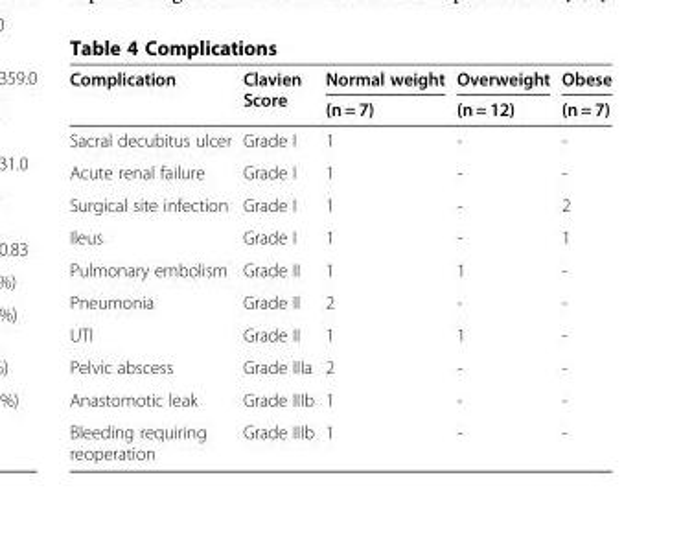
<table><thead><tr><td rowspan="2">Complication</td><td rowspan="2">Clavien Score</td><td rowspan="2">Normal weight (n = 7)</td><td rowspan="2">Overweight (n = 12)</td><td rowspan="2">Obese (n = 7)</td></tr><tr></tr></thead><tbody><tr><td>Sacral decubitus ulcer</td><td>Grade I</td><td>1</td><td>-</td><td>-</td></tr><tr><td>Acute renal failure</td><td>Grade I</td><td>1</td><td>-</td><td>-</td></tr><tr><td>Surgical site infection</td><td>Grade I</td><td>1</td><td>-</td><td>2</td></tr><tr><td>Ileus</td><td>Grade I</td><td>1</td><td>-</td><td>1</td></tr><tr><td>Pulmonary embolism</td><td>Grade II</td><td>1</td><td>1</td><td>-</td></tr><tr><td>Pneumonia</td><td>Grade II</td><td>2</td><td>-</td><td>-</td></tr><tr><td>UTI</td><td>Grade II</td><td>1</td><td>1</td><td>-</td></tr><tr><td>Pelvic abscess</td><td>Grade IIIa</td><td>2</td><td>-</td><td>-</td></tr><tr><td>Anastomotic leak</td><td>Grade IIIb</td><td>1</td><td>-</td><td>-</td></tr><tr><td>Bleeding requiring reoperation</td><td>Grade IIIb</td><td>1</td><td>-</td><td>-</td></tr></tbody></table>